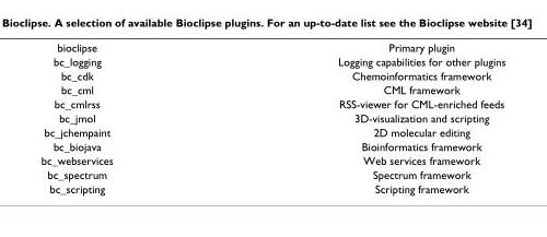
<table><tbody><tr><td>bioclipse</td><td>Primary plugin</td></tr><tr><td>bc_logging</td><td>Logging capabilities for other plugins</td></tr><tr><td>bc_cdk</td><td>Chemoinformatics framework</td></tr><tr><td>bc_cml</td><td>CML framework</td></tr><tr><td>bc_cmlrss</td><td>RSS-viewer for CML-enriched feeds</td></tr><tr><td>bc_jmol</td><td>3D-visualization and scripting</td></tr><tr><td>bc_jchempaint</td><td>2D molecular editing</td></tr><tr><td>bc_biojava</td><td>Bioinformatics framework</td></tr><tr><td>bc_webservices</td><td>Web services framework</td></tr><tr><td>bc_spectrum</td><td>Spectrum framework</td></tr><tr><td>bc_scripting</td><td>Scripting framework</td></tr></tbody></table>